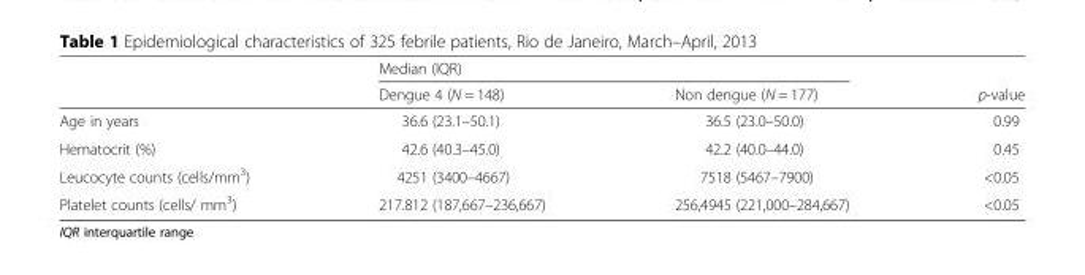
<table><thead><tr><td rowspan="2"></td><td colspan="2">Median (IQR)</td><td rowspan="2">p-value</td></tr><tr><td>Dengue 4 (N = 148)</td><td>Non dengue (N = 177)</td></tr></thead><tbody><tr><td>Age in years</td><td>36.6 (23.1–50.1)</td><td>36.5 (23.0–50.0)</td><td>0.99</td></tr><tr><td>Hematocrit (%)</td><td>42.6 (40.3–45.0)</td><td>42.2 (40.0–44.0)</td><td>0.45</td></tr><tr><td>Leucocyte counts (cells/mm<sup>3</sup>)</td><td>4251 (3400–4667)</td><td>7518 (5467–7900)</td><td>&lt;0.05</td></tr><tr><td>Platelet counts (cells/ mm<sup>3</sup>)</td><td>217.812 (187,667–236,667)</td><td>256,4945 (221,000–284,667)</td><td>&lt;0.05</td></tr></tbody></table>